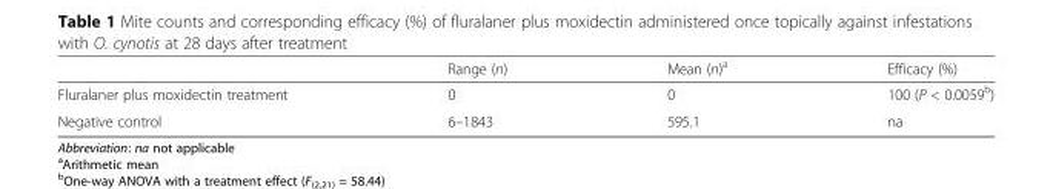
<table><thead><tr><td></td><td>Range (n)</td><td>Mean (n)<sup>a</sup></td><td>Efficacy (%)</td></tr></thead><tbody><tr><td>Fluralaner plus moxidectin treatment</td><td>0</td><td>0</td><td>100 (P &lt; 0.0059<sup>b</sup>)</td></tr><tr><td>Negative control</td><td>6–1843</td><td>595.1</td><td>na</td></tr></tbody></table>